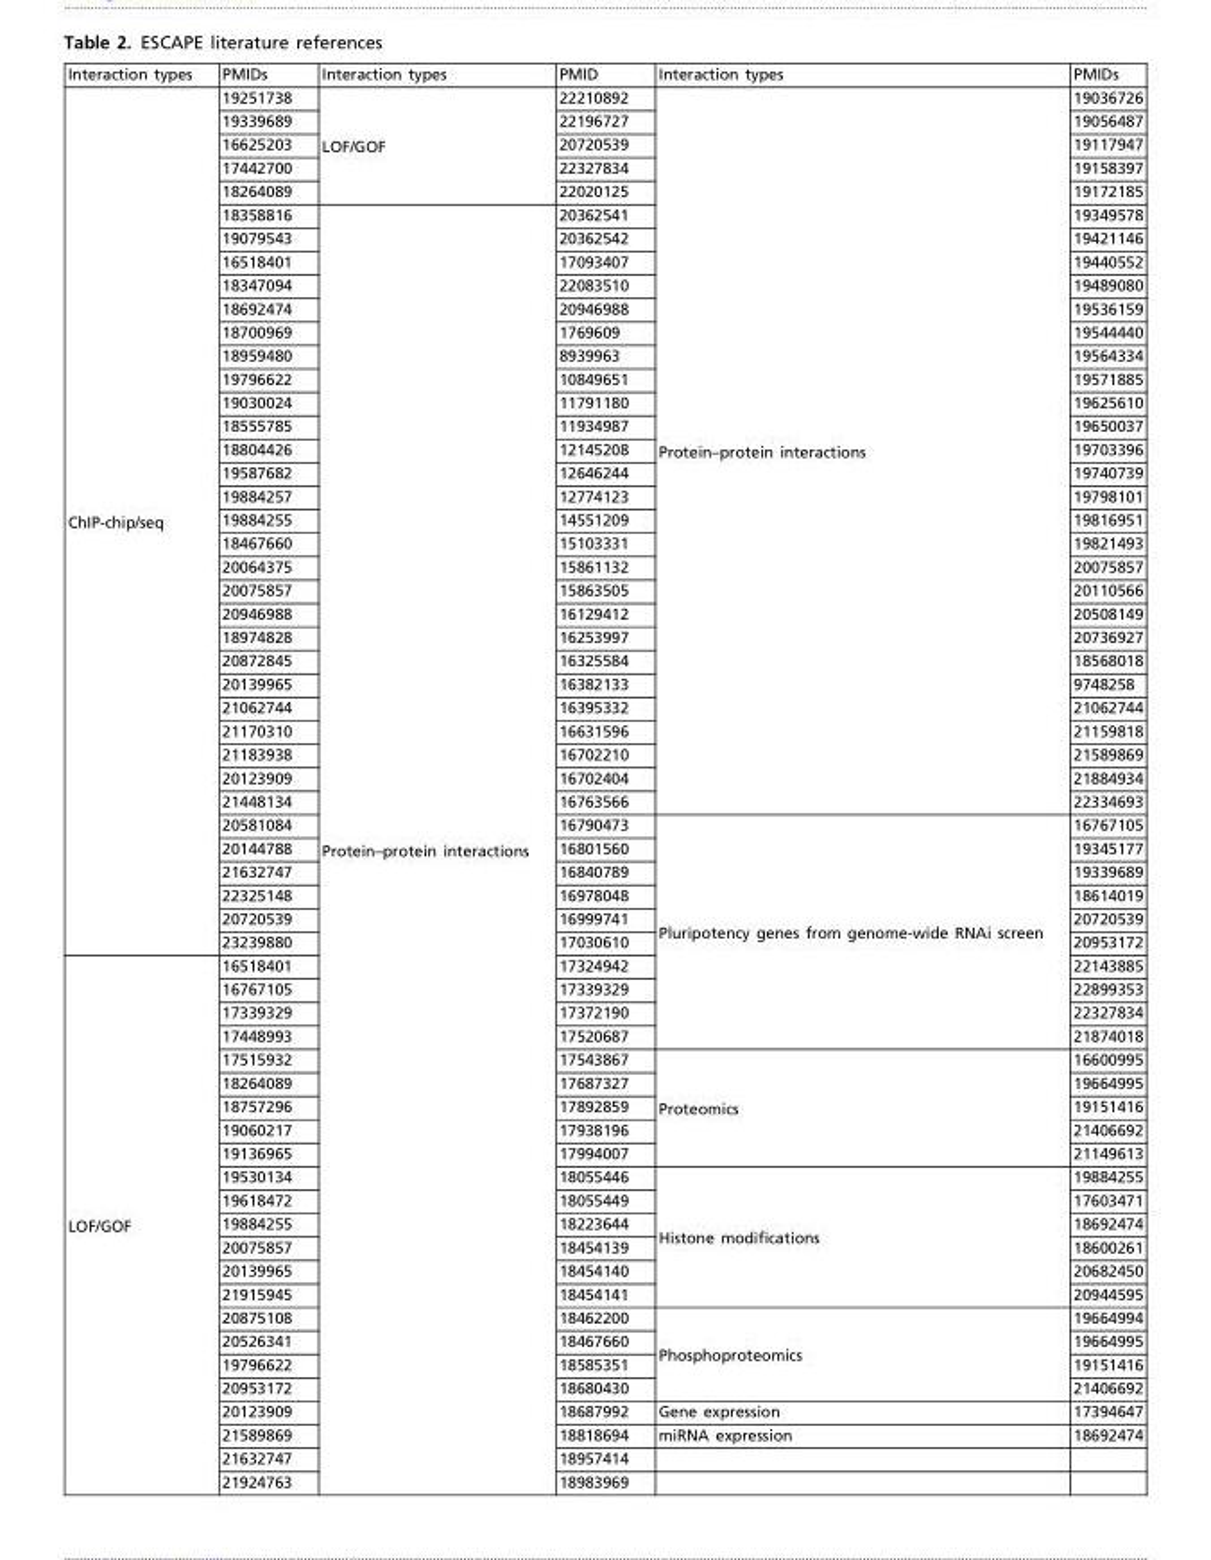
<table><thead><tr><td>Interaction types</td><td>PMIDs</td><td>Interaction types</td><td>PMID</td><td>Interaction types</td><td>PMIDs</td></tr></thead><tbody><tr><td rowspan="37">ChIP-chip/seq</td><td>19251738</td><td rowspan="5">LOF/GOF</td><td>22210892</td><td rowspan="31">Protein–protein interactions</td><td>19036726</td></tr><tr><td>19339689</td><td>22196727</td><td>19056487</td></tr><tr><td>16625203</td><td>20720539</td><td>19117947</td></tr><tr><td>17442700</td><td>22327834</td><td>19158397</td></tr><tr><td>18264089</td><td>22020125</td><td>19172185</td></tr><tr><td>18358816</td><td rowspan="55">Protein–protein interactions</td><td>20362541</td><td>19349578</td></tr><tr><td>19079543</td><td>20362542</td><td>19421146</td></tr><tr><td>16518401</td><td>17093407</td><td>19440552</td></tr><tr><td>18347094</td><td>22083510</td><td>19489080</td></tr><tr><td>18692474</td><td>20946988</td><td>19536159</td></tr><tr><td>18700969</td><td>1769609</td><td>19544440</td></tr><tr><td>18959480</td><td>8939963</td><td>19564334</td></tr><tr><td>19796622</td><td>10849651</td><td>19571885</td></tr><tr><td>19030024</td><td>11791180</td><td>19625610</td></tr><tr><td>18555785</td><td>11934987</td><td>19650037</td></tr><tr><td>18804426</td><td>12145208</td><td>19703396</td></tr><tr><td>19587682</td><td>12646244</td><td>19740739</td></tr><tr><td>19884257</td><td>12774123</td><td>19798101</td></tr><tr><td>19884255</td><td>14551209</td><td>19816951</td></tr><tr><td>18467660</td><td>15103331</td><td>19821493</td></tr><tr><td>20064375</td><td>15861132</td><td>20075857</td></tr><tr><td>20075857</td><td>15863505</td><td>20110566</td></tr><tr><td>20946988</td><td>16129412</td><td>20508149</td></tr><tr><td>18974828</td><td>16253997</td><td>20736927</td></tr><tr><td>20872845</td><td>16325584</td><td>18568018</td></tr><tr><td>20139965</td><td>16382133</td><td>9748258</td></tr><tr><td>21062744</td><td>16395332</td><td>21062744</td></tr><tr><td>21170310</td><td>16631596</td><td>21159818</td></tr><tr><td>21183938</td><td>16702210</td><td>21589869</td></tr><tr><td>20123909</td><td>16702404</td><td>21884934</td></tr><tr><td>21448134</td><td>16763566</td><td>22334693</td></tr><tr><td>20581084</td><td>16790473</td><td rowspan="10">Pluripotency genes from genome-wide RNAi screen</td><td>16767105</td></tr><tr><td>20144788</td><td>16801560</td><td>19345177</td></tr><tr><td>21632747</td><td>16840789</td><td>19339689</td></tr><tr><td>22325148</td><td>16978048</td><td>18614019</td></tr><tr><td>20720539</td><td>16999741</td><td>20720539</td></tr><tr><td>23239880</td><td>17030610</td><td>20953172</td></tr><tr><td rowspan="23">LOF/GOF</td><td>16518401</td><td>17324942</td><td>22143885</td></tr><tr><td>16767105</td><td>17339329</td><td>22899353</td></tr><tr><td>17339329</td><td>17372190</td><td>22327834</td></tr><tr><td>17448993</td><td>17520687</td><td>21874018</td></tr><tr><td>17515932</td><td>17543867</td><td rowspan="5">Proteomics</td><td>16600995</td></tr><tr><td>18264089</td><td>17687327</td><td>19664995</td></tr><tr><td>18757296</td><td>17892859</td><td>19151416</td></tr><tr><td>19060217</td><td>17938196</td><td>21406692</td></tr><tr><td>19136965</td><td>17994007</td><td>21149613</td></tr><tr><td>19530134</td><td>18055446</td><td rowspan="6">Histone modifications</td><td>19884255</td></tr><tr><td>19618472</td><td>18055449</td><td>17603471</td></tr><tr><td>19884255</td><td>18223644</td><td>18692474</td></tr><tr><td>20075857</td><td>18454139</td><td>18600261</td></tr><tr><td>20139965</td><td>18454140</td><td>20682450</td></tr><tr><td>21915945</td><td>18454141</td><td>20944595</td></tr><tr><td>20875108</td><td>18462200</td><td rowspan="4">Phosphoproteomics</td><td>19664994</td></tr><tr><td>20526341</td><td>18467660</td><td>19664995</td></tr><tr><td>19796622</td><td>18585351</td><td>19151416</td></tr><tr><td>20953172</td><td>18680430</td><td>21406692</td></tr><tr><td>20123909</td><td>18687992</td><td>Gene expression</td><td>17394647</td></tr><tr><td>21589869</td><td>18818694</td><td>miRNA expression</td><td>18692474</td></tr><tr><td>21632747</td><td>18957414</td><td></td><td></td></tr><tr><td>21924763</td><td>18983969</td><td></td><td></td></tr></tbody></table>